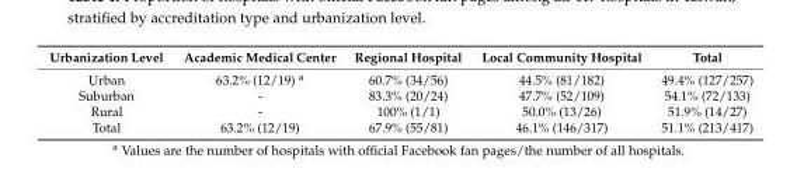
<table><thead><tr><td>Urbanization Level</td><td>Academic Medical Center</td><td>Regional Hospital</td><td>Local Community Hospital</td><td>Total</td></tr></thead><tbody><tr><td>Urban</td><td>63.2% (12/19) <sup>a</sup></td><td>60.7% (34/56)</td><td>44.5% (81/182)</td><td>49.4% (127/257)</td></tr><tr><td>Suburban</td><td>-</td><td>83.3% (20/24)</td><td>47.7% (52/109)</td><td>54.1% (72/133)</td></tr><tr><td>Rural</td><td>-</td><td>100% (1/1)</td><td>50.0% (13/26)</td><td>51.9% (14/27)</td></tr><tr><td>Total</td><td>63.2% (12/19)</td><td>67.9% (55/81)</td><td>46.1% (146/317)</td><td>51.1% (213/417)</td></tr></tbody></table>